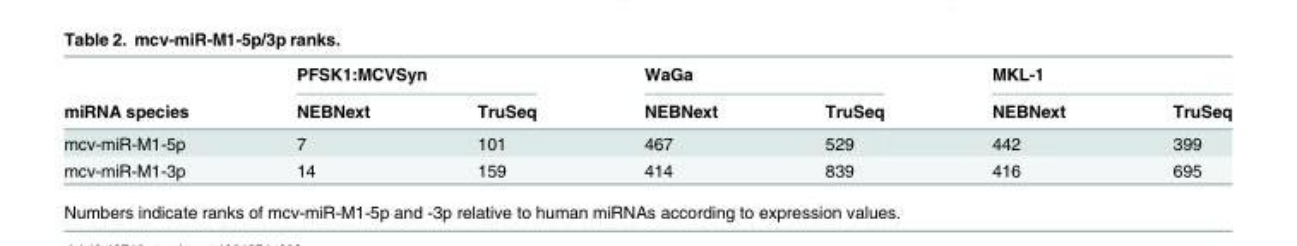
<table><thead><tr><td rowspan="2">miRNA species</td><td colspan="2">PFSK1:MCVSyn</td><td colspan="2">WaGa</td><td colspan="2">MKL-1</td></tr><tr><td>NEBNext</td><td>TruSeq</td><td>NEBNext</td><td>TruSeq</td><td>NEBNext</td><td>TruSeq</td></tr></thead><tbody><tr><td>mcv-miR-M1-5p</td><td>7</td><td>101</td><td>467</td><td>529</td><td>442</td><td>399</td></tr><tr><td>mcv-miR-M1-3p</td><td>14</td><td>159</td><td>414</td><td>839</td><td>416</td><td>695</td></tr></tbody></table>